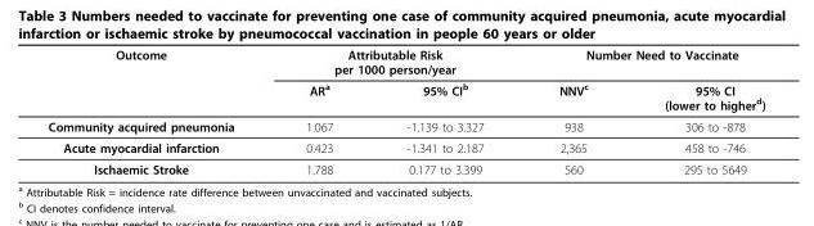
<table><thead><tr><td rowspan="2">Outcome</td><td colspan="2">Attributable Risk per 1000 person/year</td><td colspan="2">Number Need to Vaccinate</td></tr><tr><td>AR<sup>a</sup></td><td>95% CI<sup>b</sup></td><td>NNV<sup>c</sup></td><td>95% CI (lower to higher<sup>d</sup>)</td></tr></thead><tbody><tr><td>Community acquired pneumonia</td><td>1.067</td><td>-1.139 to 3.327</td><td>938</td><td>306 to -878</td></tr><tr><td>Acute myocardial infarction</td><td>0.423</td><td>-1.341 to 2.187</td><td>2,365</td><td>458 to -746</td></tr><tr><td>Ischaemic Stroke</td><td>1.788</td><td>0.177 to 3.399</td><td>560</td><td>295 to 5649</td></tr></tbody></table>